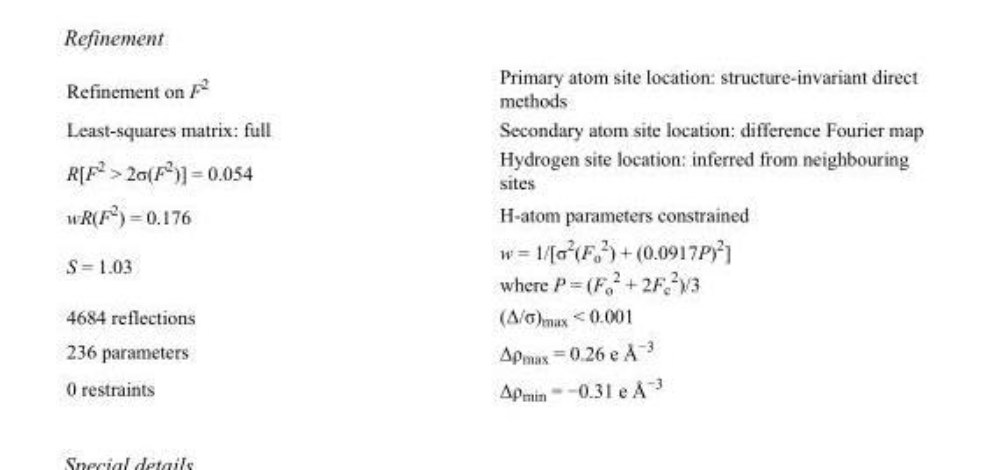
<table><tbody><tr><td>Refinement on F<sup>2</sup></td><td>Primary atom site location: structure-invariant direct methods</td></tr><tr><td>Least-squares matrix: full</td><td>Secondary atom site location: difference Fourier map</td></tr><tr><td>R[F<sup>2</sup> &gt; 2σ(F<sup>2</sup>)] = 0.054</td><td>Hydrogen site location: inferred from neighbouring sites</td></tr><tr><td>wR(F<sup>2</sup>) = 0.176</td><td>H-atom parameters constrained</td></tr><tr><td>S = 1.03</td><td>w = 1/[σ<sup>2</sup>(F<sub>o</sub> <sup>2</sup>) + (0.0917P)<sup>2</sup>] where P = (F<sub>o</sub> <sup>2</sup> + 2F<sub>c</sub> <sup>2</sup>)/3</td></tr><tr><td>4684 reflections</td><td>(Δ/σ)<sub>max</sub> &lt; 0.001</td></tr><tr><td>236 parameters</td><td>Δρ<sub>max</sub> = 0.26 e Å<sup>−3</sup></td></tr><tr><td>0 restraints</td><td>Δρ<sub>min</sub> = −0.31 e Å<sup>−3</sup></td></tr></tbody></table>